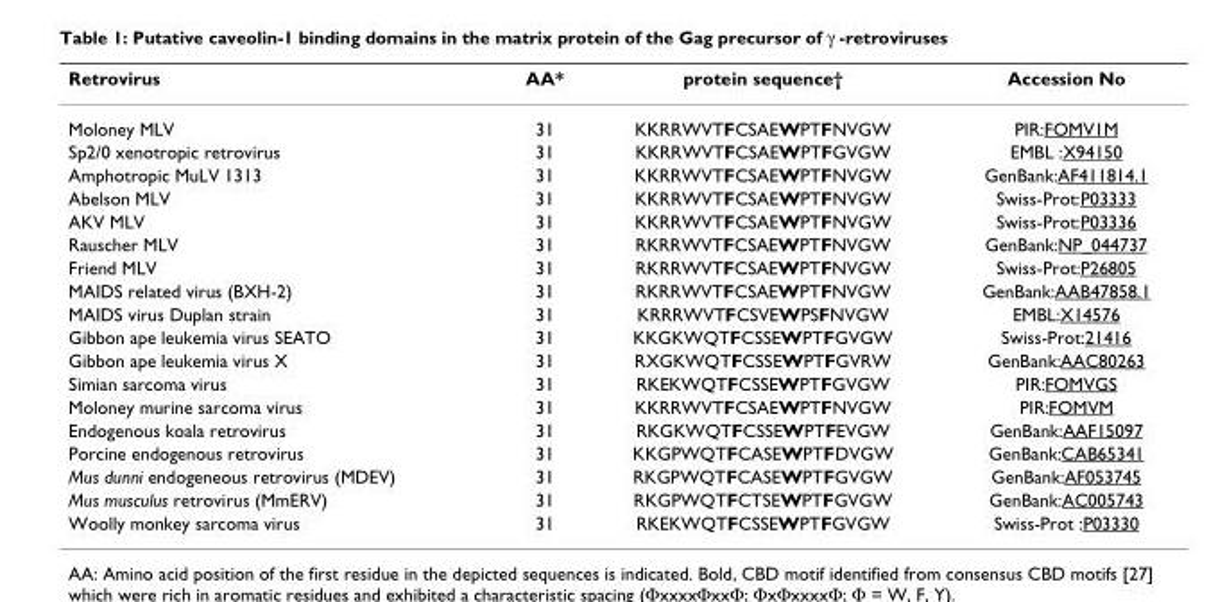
<table><thead><tr><td>Retrovirus</td><td>AA*</td><td>protein sequence†</td><td>Accession No</td></tr></thead><tbody><tr><td>Moloney MLV</td><td>31</td><td>KKRRWVTFCSAEWPTFNVGW</td><td>PIR:FOMV1M</td></tr><tr><td>Sp2/0 xenotropic retrovirus</td><td>31</td><td>KKRRWVTFCSAEWPTFGVGW</td><td>EMBL :X94150</td></tr><tr><td>Amphotropic MuLV 1313</td><td>31</td><td>KKRRWVTFCSAEWPTFNVGW</td><td>GenBank:AF411814.1</td></tr><tr><td>Abelson MLV</td><td>31</td><td>KKRRWVTFCSAEWPTFNVGW</td><td>Swiss-Prot:P03333</td></tr><tr><td>AKV MLV</td><td>31</td><td>KKRRWVTFCSAEWPTFNVGW</td><td>Swiss-Prot:P03336</td></tr><tr><td>Rauscher MLV</td><td>31</td><td>RKRRWVTFCSAEWPTFNVGW</td><td>GenBank:NP_044737</td></tr><tr><td>Friend MLV</td><td>31</td><td>RKRRWVTFCSAEWPTFNVGW</td><td>Swiss-Prot:P26805</td></tr><tr><td>MAIDS related virus (BXH-2)</td><td>31</td><td>RKRRWVTFCSAEWPTFNVGW</td><td>GenBank:AAB47858.1</td></tr><tr><td>MAIDS virus Duplan strain</td><td>31</td><td>KRRRWVTFCSVEWPSFNVGW</td><td>EMBL:X14576</td></tr><tr><td>Gibbon ape leukemia virus SEATO</td><td>31</td><td>KKGKWQTFCSSEWPTFGVGW</td><td>Swiss-Prot:21416</td></tr><tr><td>Gibbon ape leukemia virus X</td><td>31</td><td>RXGKWQTFCSSEWPTFGVRW</td><td>GenBank:AAC80263</td></tr><tr><td>Simian sarcoma virus</td><td>31</td><td>RKEKWQTFCSSEWPTFGVGW</td><td>PIR:FOMVGS</td></tr><tr><td>Moloney murine sarcoma virus</td><td>31</td><td>KKRRWVTFCSAEWPTFNVGW</td><td>PIR:FOMVM</td></tr><tr><td>Endogenous koala retrovirus</td><td>31</td><td>RKGKWQTFCSSEWPTFEVGW</td><td>GenBank:AAF15097</td></tr><tr><td>Porcine endogenous retrovirus</td><td>31</td><td>KKGPWQTFCASEWPTFDVGW</td><td>GenBank:CAB65341</td></tr><tr><td>Mus dunni endogeneous retrovirus (MDEV)</td><td>31</td><td>RKGPWQTFCASEWPTFGVGW</td><td>GenBank:AF053745</td></tr><tr><td>Mus musculus retrovirus (MmERV)</td><td>31</td><td>RKGPWQTFCTSEWPTFGVGW</td><td>GenBank:AC005743</td></tr><tr><td>Woolly monkey sarcoma virus</td><td>31</td><td>RKEKWQTFCSSEWPTFGVGW</td><td>Swiss-Prot :P03330</td></tr></tbody></table>